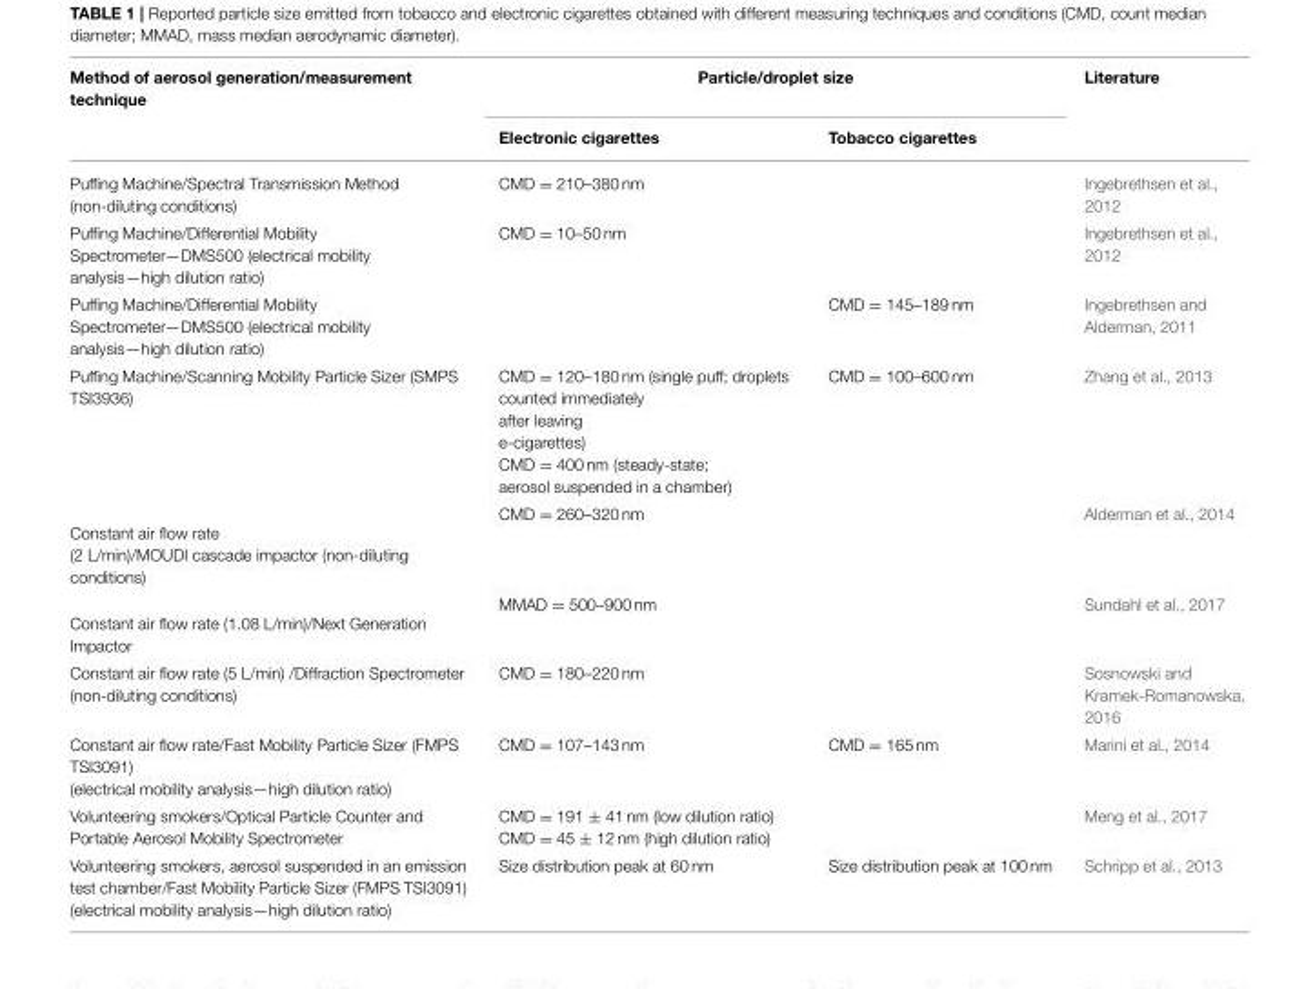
<table><thead><tr><td rowspan="2">Method of aerosol generation/measurement technique</td><td colspan="2">Particle/droplet size</td><td rowspan="2">Literature</td></tr><tr><td>Electronic cigarettes</td><td>Tobacco cigarettes</td></tr></thead><tbody><tr><td>Puffing Machine/Spectral Transmission Method (non-diluting conditions)</td><td>CMD = 210–380 nm</td><td></td><td>Ingebrethsen et al., 2012</td></tr><tr><td>Puffing Machine/Differential Mobility Spectrometer—DMS500 (electrical mobility analysis—high dilution ratio)</td><td>CMD = 10–50 nm</td><td></td><td>Ingebrethsen et al., 2012</td></tr><tr><td>Puffing Machine/Differential Mobility Spectrometer—DMS500 (electrical mobility analysis—high dilution ratio)</td><td></td><td>CMD = 145–189 nm</td><td>Ingebrethsen and Alderman, 2011</td></tr><tr><td>Puffing Machine/Scanning Mobility Particle Sizer (SMPS TSI3936)</td><td>CMD = 120–180 nm (single puff; droplets counted immediately after leaving e-cigarettes) CMD = 400 nm (steady-state; aerosol suspended in a chamber)</td><td>CMD = 100–600 nm</td><td>Zhang et al., 2013</td></tr><tr><td>Constant air flow rate (2 L/min)/MOUDI cascade impactor (non-diluting conditions)</td><td>CMD = 260–320 nm</td><td></td><td>Alderman et al., 2014</td></tr><tr><td>Constant air flow rate (1.08 L/min)/Next Generation Impactor</td><td>MMAD = 500–900 nm</td><td></td><td>Sundahl et al., 2017</td></tr><tr><td>Constant air flow rate (5 L/min) /Diffraction Spectrometer (non-diluting conditions)</td><td>CMD = 180–220 nm</td><td></td><td>Sosnowski and Kramek-Romanowska, 2016</td></tr><tr><td>Constant air flow rate/Fast Mobility Particle Sizer (FMPS TSI3091) (electrical mobility analysis—high dilution ratio)</td><td>CMD = 107–143 nm</td><td>CMD = 165 nm</td><td>Marini et al., 2014</td></tr><tr><td>Volunteering smokers/Optical Particle Counter and Portable Aerosol Mobility Spectrometer</td><td>CMD = 191 ± 41 nm (low dilution ratio) CMD = 45 ± 12 nm (high dilution ratio)</td><td></td><td>Meng et al., 2017</td></tr><tr><td>Volunteering smokers, aerosol suspended in an emission test chamber/Fast Mobility Particle Sizer (FMPS TSI3091) (electrical mobility analysis—high dilution ratio)</td><td>Size distribution peak at 60 nm</td><td>Size distribution peak at 100 nm</td><td>Schripp et al., 2013</td></tr></tbody></table>